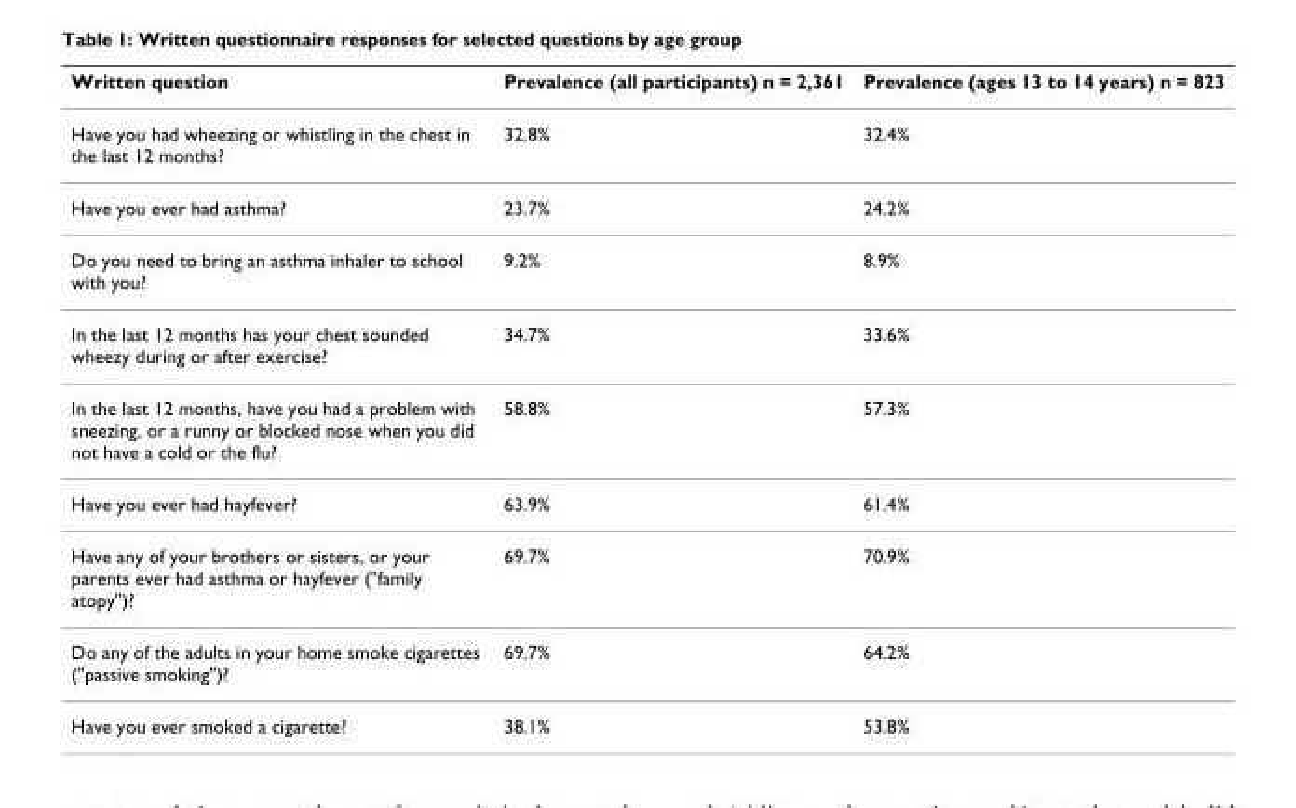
<table><thead><tr><td>Written question</td><td>Prevalence (all participants) n = 2,361</td><td>Prevalence (ages 13 to 14 years) n = 823</td></tr></thead><tbody><tr><td>Have you had wheezing or whistling in the chest in the last 12 months?</td><td>32.8%</td><td>32.4%</td></tr><tr><td>Have you ever had asthma?</td><td>23.7%</td><td>24.2%</td></tr><tr><td>Do you need to bring an asthma inhaler to school with you?</td><td>9.2%</td><td>8.9%</td></tr><tr><td>In the last 12 months has your chest sounded wheezy during or after exercise?</td><td>34.7%</td><td>33.6%</td></tr><tr><td>In the last 12 months, have you had a problem with sneezing, or a runny or blocked nose when you did not have a cold or the flu?</td><td>58.8%</td><td>57.3%</td></tr><tr><td>Have you ever had hayfever?</td><td>63.9%</td><td>61.4%</td></tr><tr><td>Have any of your brothers or sisters, or your parents ever had asthma or hayfever (&quot;family atopy&quot;)?</td><td>69.7%</td><td>70.9%</td></tr><tr><td>Do any of the adults in your home smoke cigarettes (&quot;passive smoking&quot;)?</td><td>69.7%</td><td>64.2%</td></tr><tr><td>Have you ever smoked a cigarette?</td><td>38.1%</td><td>53.8%</td></tr></tbody></table>